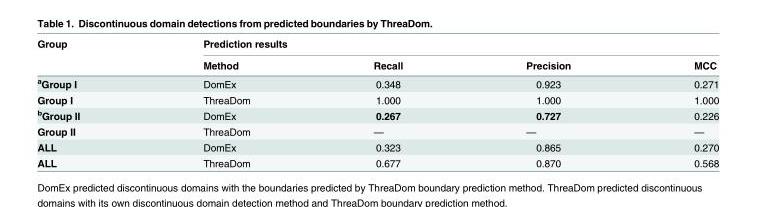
<table><thead><tr><td rowspan="2">Group</td><td colspan="4">Prediction results</td></tr><tr><td>Method</td><td>Recall</td><td>Precision</td><td>MCC</td></tr></thead><tbody><tr><td><sup>a</sup>Group I</td><td>DomEx</td><td>0.348</td><td>0.923</td><td>0.271</td></tr><tr><td>Group I</td><td>ThreaDom</td><td>1.000</td><td>1.000</td><td>1.000</td></tr><tr><td><sup>b</sup>Group II</td><td>DomEx</td><td>0.267</td><td>0.727</td><td>0.226</td></tr><tr><td>Group II</td><td>ThreaDom</td><td>—</td><td>—</td><td>—</td></tr><tr><td>ALL</td><td>DomEx</td><td>0.323</td><td>0.865</td><td>0.270</td></tr><tr><td>ALL</td><td>ThreaDom</td><td>0.677</td><td>0.870</td><td>0.568</td></tr></tbody></table>